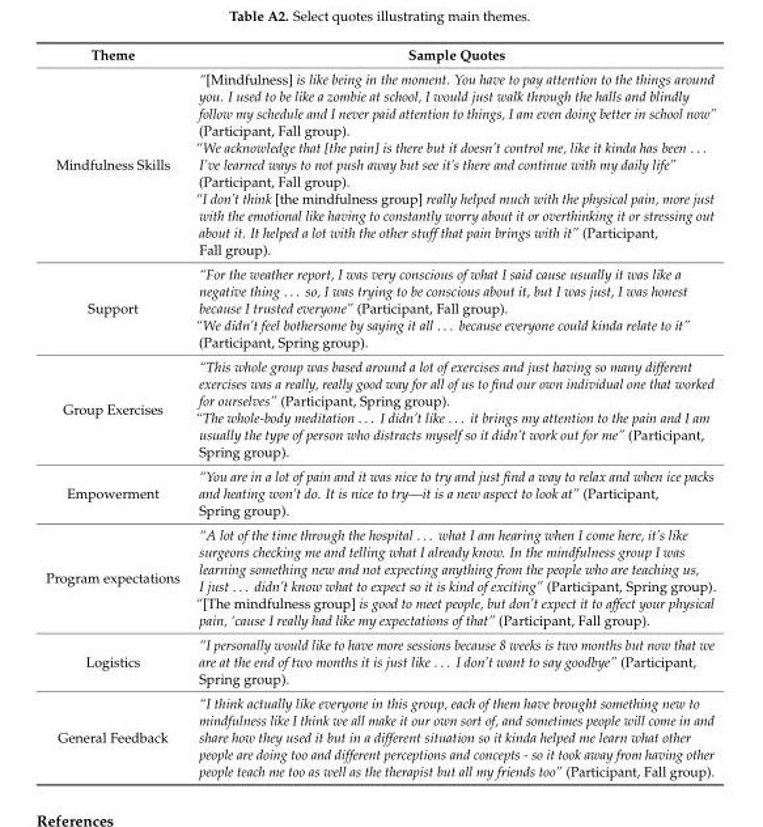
<table><thead><tr><td>Theme</td><td>Sample Quotes</td></tr></thead><tbody><tr><td>Mindfulness Skills</td><td>“[Mindfulness] is like being in the moment. You have to pay attention to the things around you. I used to be like a zombie at school, I would just walk through the halls and blindly follow my schedule and I never paid attention to things, I am even doing better in school now” (Participant, Fall group). “We acknowledge that [the pain] is there but it doesn’t control me, like it kinda has been . . . I’ve learned ways to not push away but see it’s there and continue with my daily life” (Participant, Fall group). “I don’t think [the mindfulness group] really helped much with the physical pain, more just with the emotional like having to constantly worry about it or overthinking it or stressing out about it. It helped a lot with the other stuff that pain brings with it” (Participant, Fall group).</td></tr><tr><td>Support</td><td>“For the weather report, I was very conscious of what I said cause usually it was like a negative thing . . . so, I was trying to be conscious about it, but I was just, I was honest because I trusted everyone” (Participant, Fall group). “We didn’t feel bothersome by saying it all . . . because everyone could kinda relate to it” (Participant, Spring group).</td></tr><tr><td>Group Exercises</td><td>“This whole group was based around a lot of exercises and just having so many different exercises was a really, really good way for all of us to find our own individual one that worked for ourselves” (Participant, Spring group). “The whole-body meditation . . . I didn’t like . . . it brings my attention to the pain and I am usually the type of person who distracts myself so it didn’t work out for me” (Participant, Spring group).</td></tr><tr><td>Empowerment</td><td>“You are in a lot of pain and it was nice to try and just find a way to relax and when ice packs and heating won’t do. It is nice to try—it is a new aspect to look at” (Participant, Spring group).</td></tr><tr><td>Program expectations</td><td>“A lot of the time through the hospital . . . what I am hearing when I come here, it’s like surgeons checking me and telling what I already know. In the mindfulness group I was learning something new and not expecting anything from the people who are teaching us, I just . . . didn’t know what to expect so it is kind of exciting” (Participant, Spring group). “[The mindfulness group] is good to meet people, but don’t expect it to affect your physical pain, ‘cause I really had like my expectations of that” (Participant, Fall group).</td></tr><tr><td>Logistics</td><td>“I personally would like to have more sessions because 8 weeks is two months but now that we are at the end of two months it is just like . . . I don’t want to say goodbye” (Participant, Spring group).</td></tr><tr><td>General Feedback</td><td>“I think actually like everyone in this group, each of them have brought something new to mindfulness like I think we all make it our own sort of, and sometimes people will come in and share how they used it but in a different situation so it kinda helped me learn what other people are doing too and different perceptions and concepts - so it took away from having other people teach me too as well as the therapist but all my friends too” (Participant, Fall group).</td></tr></tbody></table>